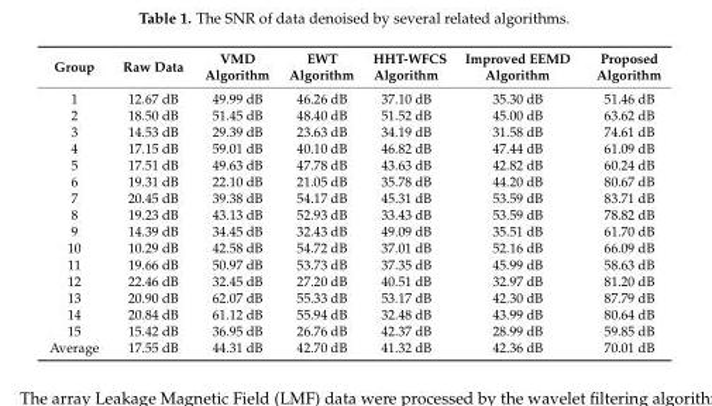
<table><thead><tr><td>Group</td><td>Raw Data</td><td>VMD Algorithm</td><td>EWT Algorithm</td><td>HHT-WFCS Algorithm</td><td>Improved EEMD Algorithm</td><td>Proposed Algorithm</td></tr></thead><tbody><tr><td>1</td><td>12.67 dB</td><td>49.99 dB</td><td>46.26 dB</td><td>37.10 dB</td><td>35.30 dB</td><td>51.46 dB</td></tr><tr><td>2</td><td>18.50 dB</td><td>51.45 dB</td><td>48.40 dB</td><td>51.52 dB</td><td>45.00 dB</td><td>63.62 dB</td></tr><tr><td>3</td><td>14.53 dB</td><td>29.39 dB</td><td>23.63 dB</td><td>34.19 dB</td><td>31.58 dB</td><td>74.61 dB</td></tr><tr><td>4</td><td>17.15 dB</td><td>59.01 dB</td><td>40.10 dB</td><td>46.82 dB</td><td>47.44 dB</td><td>61.09 dB</td></tr><tr><td>5</td><td>17.51 dB</td><td>49.63 dB</td><td>47.78 dB</td><td>43.63 dB</td><td>42.82 dB</td><td>60.24 dB</td></tr><tr><td>6</td><td>19.31 dB</td><td>22.10 dB</td><td>21.05 dB</td><td>35.78 dB</td><td>44.20 dB</td><td>80.67 dB</td></tr><tr><td>7</td><td>20.45 dB</td><td>39.38 dB</td><td>54.17 dB</td><td>45.31 dB</td><td>53.59 dB</td><td>83.71 dB</td></tr><tr><td>8</td><td>19.23 dB</td><td>43.13 dB</td><td>52.93 dB</td><td>33.43 dB</td><td>53.59 dB</td><td>78.82 dB</td></tr><tr><td>9</td><td>14.39 dB</td><td>34.45 dB</td><td>32.43 dB</td><td>49.09 dB</td><td>35.51 dB</td><td>61.70 dB</td></tr><tr><td>10</td><td>10.29 dB</td><td>42.58 dB</td><td>54.72 dB</td><td>37.01 dB</td><td>52.16 dB</td><td>66.09 dB</td></tr><tr><td>11</td><td>19.66 dB</td><td>50.97 dB</td><td>53.73 dB</td><td>37.35 dB</td><td>45.99 dB</td><td>58.63 dB</td></tr><tr><td>12</td><td>22.46 dB</td><td>32.45 dB</td><td>27.20 dB</td><td>40.51 dB</td><td>32.97 dB</td><td>81.20 dB</td></tr><tr><td>13</td><td>20.90 dB</td><td>62.07 dB</td><td>55.33 dB</td><td>53.17 dB</td><td>42.30 dB</td><td>87.79 dB</td></tr><tr><td>14</td><td>20.84 dB</td><td>61.12 dB</td><td>55.94 dB</td><td>32.48 dB</td><td>43.99 dB</td><td>80.64 dB</td></tr><tr><td>15</td><td>15.42 dB</td><td>36.95 dB</td><td>26.76 dB</td><td>42.37 dB</td><td>28.99 dB</td><td>59.85 dB</td></tr><tr><td>Average</td><td>17.55 dB</td><td>44.31 dB</td><td>42.70 dB</td><td>41.32 dB</td><td>42.36 dB</td><td>70.01 dB</td></tr></tbody></table>